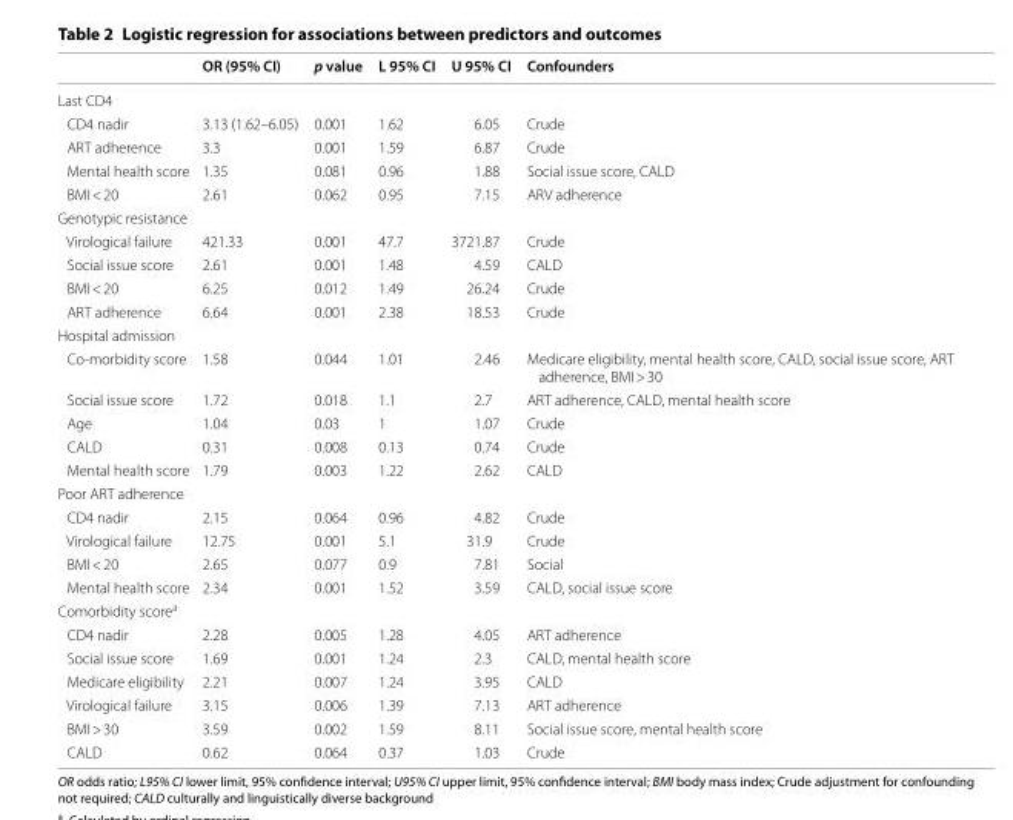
<table><thead><tr><td></td><td>OR (95% CI)</td><td>p value</td><td>L 95% CI</td><td>U 95% CI</td><td>Confounders</td></tr></thead><tbody><tr><td colspan="6">Last CD4</td></tr><tr><td>CD4 nadir</td><td>3.13 (1.62–6.05)</td><td>0.001</td><td>1.62</td><td>6.05</td><td>Crude</td></tr><tr><td>ART adherence</td><td>3.3</td><td>0.001</td><td>1.59</td><td>6.87</td><td>Crude</td></tr><tr><td>Mental health score</td><td>1.35</td><td>0.081</td><td>0.96</td><td>1.88</td><td>Social issue score, CALD</td></tr><tr><td>BMI &lt; 20</td><td>2.61</td><td>0.062</td><td>0.95</td><td>7.15</td><td>ARV adherence</td></tr><tr><td colspan="6">Genotypic resistance</td></tr><tr><td>Virological failure</td><td>421.33</td><td>0.001</td><td>47.7</td><td>3721.87</td><td>Crude</td></tr><tr><td>Social issue score</td><td>2.61</td><td>0.001</td><td>1.48</td><td>4.59</td><td>CALD</td></tr><tr><td>BMI &lt; 20</td><td>6.25</td><td>0.012</td><td>1.49</td><td>26.24</td><td>Crude</td></tr><tr><td>ART adherence</td><td>6.64</td><td>0.001</td><td>2.38</td><td>18.53</td><td>Crude</td></tr><tr><td colspan="6">Hospital admission</td></tr><tr><td>Co-morbidity score</td><td>1.58</td><td>0.044</td><td>1.01</td><td>2.46</td><td>Medicare eligibility, mental health score, CALD, social issue score, ART adherence, BMI &gt; 30</td></tr><tr><td>Social issue score</td><td>1.72</td><td>0.018</td><td>1.1</td><td>2.7</td><td>ART adherence, CALD, mental health score</td></tr><tr><td>Age</td><td>1.04</td><td>0.03</td><td>1</td><td>1.07</td><td>Crude</td></tr><tr><td>CALD</td><td>0.31</td><td>0.008</td><td>0.13</td><td>0.74</td><td>Crude</td></tr><tr><td>Mental health score</td><td>1.79</td><td>0.003</td><td>1.22</td><td>2.62</td><td>CALD</td></tr><tr><td colspan="6">Poor ART adherence</td></tr><tr><td>CD4 nadir</td><td>2.15</td><td>0.064</td><td>0.96</td><td>4.82</td><td>Crude</td></tr><tr><td>Virological failure</td><td>12.75</td><td>0.001</td><td>5.1</td><td>31.9</td><td>Crude</td></tr><tr><td>BMI &lt; 20</td><td>2.65</td><td>0.077</td><td>0.9</td><td>7.81</td><td>Social</td></tr><tr><td>Mental health score</td><td>2.34</td><td>0.001</td><td>1.52</td><td>3.59</td><td>CALD, social issue score</td></tr><tr><td colspan="6">Comorbidity score<sup>a</sup></td></tr><tr><td>CD4 nadir</td><td>2.28</td><td>0.005</td><td>1.28</td><td>4.05</td><td>ART adherence</td></tr><tr><td>Social issue score</td><td>1.69</td><td>0.001</td><td>1.24</td><td>2.3</td><td>CALD, mental health score</td></tr><tr><td>Medicare eligibility</td><td>2.21</td><td>0.007</td><td>1.24</td><td>3.95</td><td>CALD</td></tr><tr><td>Virological failure</td><td>3.15</td><td>0.006</td><td>1.39</td><td>7.13</td><td>ART adherence</td></tr><tr><td>BMI &gt; 30</td><td>3.59</td><td>0.002</td><td>1.59</td><td>8.11</td><td>Social issue score, mental health score</td></tr><tr><td>CALD</td><td>0.62</td><td>0.064</td><td>0.37</td><td>1.03</td><td>Crude</td></tr></tbody></table>